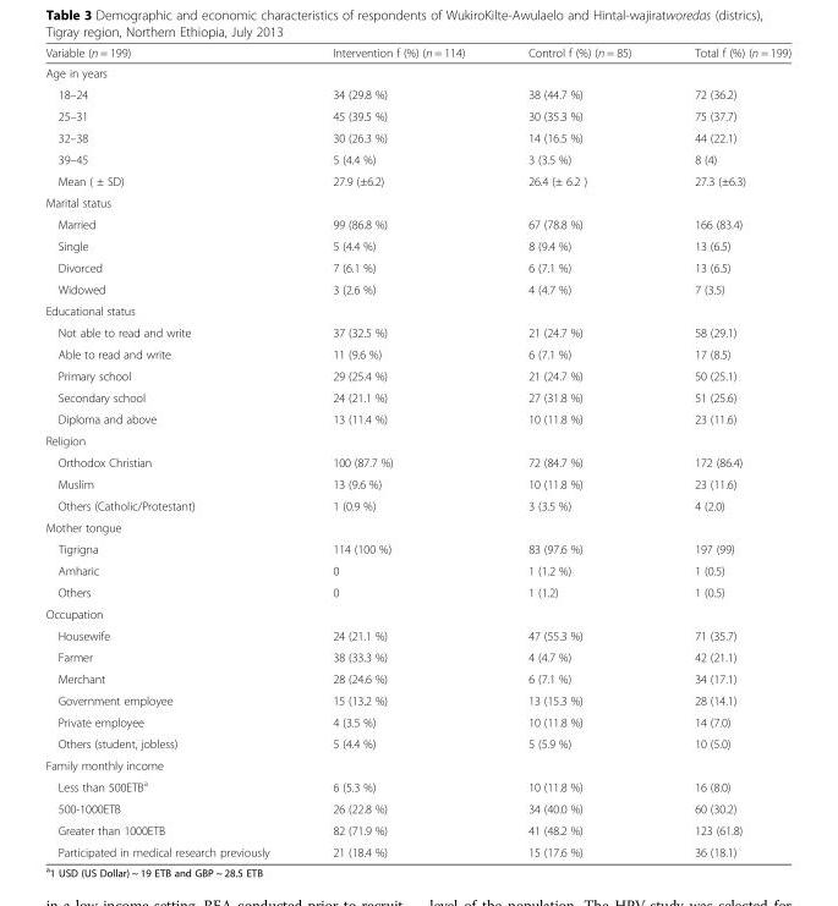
<table><thead><tr><td>Variable (n = 199)</td><td>Intervention f (%) (n = 114)</td><td>Control f (%) (n = 85)</td><td>Total f (%) (n = 199)</td></tr></thead><tbody><tr><td colspan="4">Age in years</td></tr><tr><td>18–24</td><td>34 (29.8 %)</td><td>38 (44.7 %)</td><td>72 (36.2)</td></tr><tr><td>25–31</td><td>45 (39.5 %)</td><td>30 (35.3 %)</td><td>75 (37.7)</td></tr><tr><td>32–38</td><td>30 (26.3 %)</td><td>14 (16.5 %)</td><td>44 (22.1)</td></tr><tr><td>39–45</td><td>5 (4.4 %)</td><td>3 (3.5 %)</td><td>8 (4)</td></tr><tr><td>Mean ( ± SD)</td><td>27.9 (±6.2)</td><td>26.4 (± 6.2 )</td><td>27.3 (±6.3)</td></tr><tr><td colspan="4">Marital status</td></tr><tr><td>Married</td><td>99 (86.8 %)</td><td>67 (78.8 %)</td><td>166 (83.4)</td></tr><tr><td>Single</td><td>5 (4.4 %)</td><td>8 (9.4 %)</td><td>13 (6.5)</td></tr><tr><td>Divorced</td><td>7 (6.1 %)</td><td>6 (7.1 %)</td><td>13 (6.5)</td></tr><tr><td>Widowed</td><td>3 (2.6 %)</td><td>4 (4.7 %)</td><td>7 (3.5)</td></tr><tr><td colspan="4">Educational status</td></tr><tr><td>Not able to read and write</td><td>37 (32.5 %)</td><td>21 (24.7 %)</td><td>58 (29.1)</td></tr><tr><td>Able to read and write</td><td>11 (9.6 %)</td><td>6 (7.1 %)</td><td>17 (8.5)</td></tr><tr><td>Primary school</td><td>29 (25.4 %)</td><td>21 (24.7 %)</td><td>50 (25.1)</td></tr><tr><td>Secondary school</td><td>24 (21.1 %)</td><td>27 (31.8 %)</td><td>51 (25.6)</td></tr><tr><td>Diploma and above</td><td>13 (11.4 %)</td><td>10 (11.8 %)</td><td>23 (11.6)</td></tr><tr><td colspan="4">Religion</td></tr><tr><td>Orthodox Christian</td><td>100 (87.7 %)</td><td>72 (84.7 %)</td><td>172 (86.4)</td></tr><tr><td>Muslim</td><td>13 (9.6 %)</td><td>10 (11.8 %)</td><td>23 (11.6)</td></tr><tr><td>Others (Catholic/Protestant)</td><td>1 (0.9 %)</td><td>3 (3.5 %)</td><td>4 (2.0)</td></tr><tr><td colspan="4">Mother tongue</td></tr><tr><td>Tigrigna</td><td>114 (100 %)</td><td>83 (97.6 %)</td><td>197 (99)</td></tr><tr><td>Amharic</td><td>0</td><td>1 (1.2 %)</td><td>1 (0.5)</td></tr><tr><td>Others</td><td>0</td><td>1 (1.2)</td><td>1 (0.5)</td></tr><tr><td colspan="4">Occupation</td></tr><tr><td>Housewife</td><td>24 (21.1 %)</td><td>47 (55.3 %)</td><td>71 (35.7)</td></tr><tr><td>Farmer</td><td>38 (33.3 %)</td><td>4 (4.7 %)</td><td>42 (21.1)</td></tr><tr><td>Merchant</td><td>28 (24.6 %)</td><td>6 (7.1 %)</td><td>34 (17.1)</td></tr><tr><td>Government employee</td><td>15 (13.2 %)</td><td>13 (15.3 %)</td><td>28 (14.1)</td></tr><tr><td>Private employee</td><td>4 (3.5 %)</td><td>10 (11.8 %)</td><td>14 (7.0)</td></tr><tr><td>Others (student, jobless)</td><td>5 (4.4 %)</td><td>5 (5.9 %)</td><td>10 (5.0)</td></tr><tr><td colspan="4">Family monthly income</td></tr><tr><td>Less than 500ETB<sup>a</sup></td><td>6 (5.3 %)</td><td>10 (11.8 %)</td><td>16 (8.0)</td></tr><tr><td>500-1000ETB</td><td>26 (22.8 %)</td><td>34 (40.0 %)</td><td>60 (30.2)</td></tr><tr><td>Greater than 1000ETB</td><td>82 (71.9 %)</td><td>41 (48.2 %)</td><td>123 (61.8)</td></tr><tr><td>Participated in medical research previously</td><td>21 (18.4 %)</td><td>15 (17.6 %)</td><td>36 (18.1)</td></tr></tbody></table>